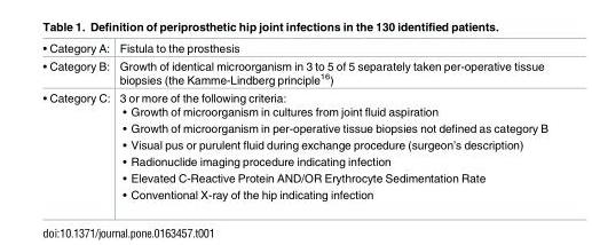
<table><tbody><tr><td>• Category A:</td><td>Fistula to the prosthesis</td></tr><tr><td>• Category B:</td><td>Growth of identical microorganism in 3 to 5 of 5 separately taken per-operative tissue biopsies (the Kamme-Lindberg principle<sup>16</sup>)</td></tr><tr><td>• Category C:</td><td>3 or more of the following criteria: • Growth of microorganism in cultures from joint fluid aspiration • Growth of microorganism in per-operative tissue biopsies not defined as category B • Visual pus or purulent fluid during exchange procedure (surgeon’s description) • Radionuclide imaging procedure indicating infection • Elevated C-Reactive Protein AND/OR Erythrocyte Sedimentation Rate • Conventional X-ray of the hip indicating infection</td></tr></tbody></table>